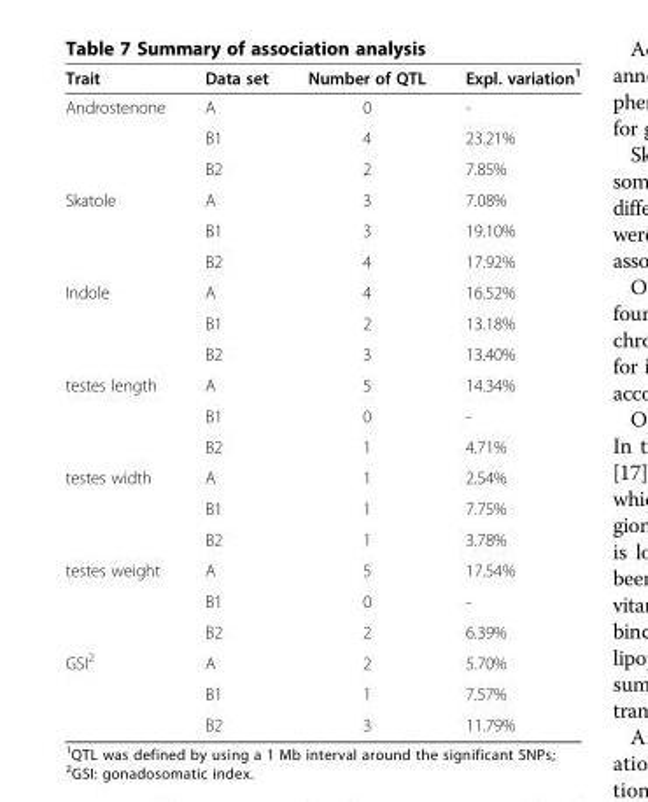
<table><thead><tr><td>Trait</td><td>Data set</td><td>Number of QTL</td><td>Expl. variation<sup>1</sup></td></tr></thead><tbody><tr><td rowspan="3">Androstenone</td><td>A</td><td>0</td><td>-</td></tr><tr><td>B1</td><td>4</td><td>23.21%</td></tr><tr><td>B2</td><td>2</td><td>7.85%</td></tr><tr><td rowspan="3">Skatole</td><td>A</td><td>3</td><td>7.08%</td></tr><tr><td>B1</td><td>3</td><td>19.10%</td></tr><tr><td>B2</td><td>4</td><td>17.92%</td></tr><tr><td rowspan="3">Indole</td><td>A</td><td>4</td><td>16.52%</td></tr><tr><td>B1</td><td>2</td><td>13.18%</td></tr><tr><td>B2</td><td>3</td><td>13.40%</td></tr><tr><td rowspan="3">testes length</td><td>A</td><td>5</td><td>14.34%</td></tr><tr><td>B1</td><td>0</td><td>-</td></tr><tr><td>B2</td><td>1</td><td>4.71%</td></tr><tr><td rowspan="3">testes width</td><td>A</td><td>1</td><td>2.54%</td></tr><tr><td>B1</td><td>1</td><td>7.75%</td></tr><tr><td>B2</td><td>1</td><td>3.78%</td></tr><tr><td rowspan="3">testes weight</td><td>A</td><td>5</td><td>17.54%</td></tr><tr><td>B1</td><td>0</td><td>-</td></tr><tr><td>B2</td><td>2</td><td>6.39%</td></tr><tr><td rowspan="3">GSI<sup>2</sup></td><td>A</td><td>2</td><td>5.70%</td></tr><tr><td>B1</td><td>1</td><td>7.57%</td></tr><tr><td>B2</td><td>3</td><td>11.79%</td></tr></tbody></table>